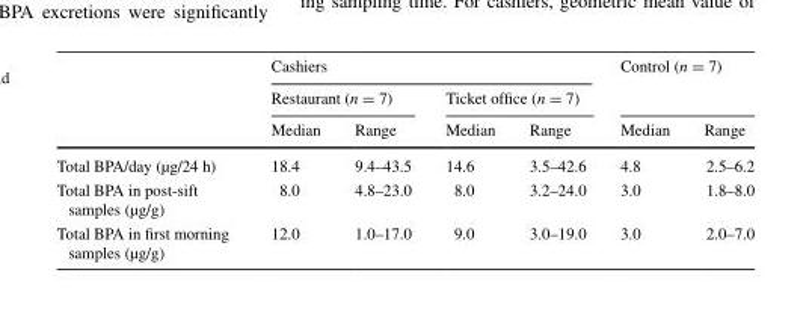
<table><thead><tr><td rowspan="3"></td><td colspan="4">Cashiers</td><td rowspan="2" colspan="2">Control (n = 7)</td></tr><tr><td colspan="2">Restaurant (n = 7)</td><td colspan="2">Ticket office (n = 7)</td></tr><tr><td>Median</td><td>Range</td><td>Median</td><td>Range</td><td>Median</td><td>Range</td></tr></thead><tbody><tr><td>Total BPA/day (µg/24 h)</td><td>18.4</td><td>9.4–43.5</td><td>14.6</td><td>3.5–42.6</td><td>4.8</td><td>2.5–6.2</td></tr><tr><td>Total BPA in post-sift samples (µg/g)</td><td>8.0</td><td>4.8–23.0</td><td>8.0</td><td>3.2–24.0</td><td>3.0</td><td>1.8–8.0</td></tr><tr><td>Total BPA in first morning samples (µg/g)</td><td>12.0</td><td>1.0–17.0</td><td>9.0</td><td>3.0–19.0</td><td>3.0</td><td>2.0–7.0</td></tr></tbody></table>